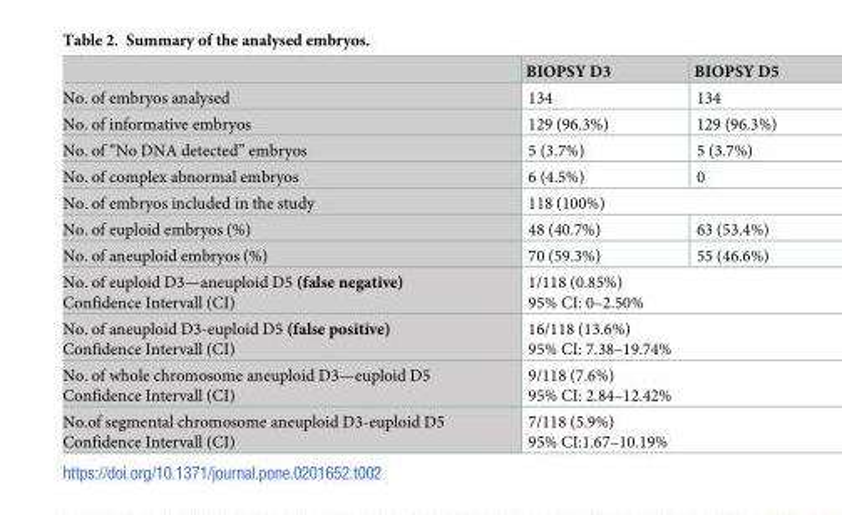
<table><thead><tr><td></td><td>BIOPSY D3</td><td>BIOPSY D5</td></tr></thead><tbody><tr><td>No. of embryos analysed</td><td>134</td><td>134</td></tr><tr><td>No. of informative embryos</td><td>129 (96.3%)</td><td>129 (96.3%)</td></tr><tr><td>No. of “No DNA detected” embryos</td><td>5 (3.7%)</td><td>5 (3.7%)</td></tr><tr><td>No. of complex abnormal embryos</td><td>6 (4.5%)</td><td>0</td></tr><tr><td>No. of embryos included in the study</td><td colspan="2">118 (100%)</td></tr><tr><td>No. of euploid embryos (%)</td><td>48 (40.7%)</td><td>63 (53.4%)</td></tr><tr><td>No. of aneuploid embryos (%)</td><td>70 (59.3%)</td><td>55 (46.6%)</td></tr><tr><td>No. of euploid D3—aneuploid D5 (false negative) Confidence Intervall (CI)</td><td colspan="2">1/118 (0.85%) 95% CI: 0–2.50%</td></tr><tr><td>No. of aneuploid D3-euploid D5 (false positive) Confidence Intervall (CI)</td><td colspan="2">16/118 (13.6%) 95% CI: 7.38–19.74%</td></tr><tr><td>No. of whole chromosome aneuploid D3—euploid D5 Confidence Intervall (CI)</td><td colspan="2">9/118 (7.6%) 95% CI: 2.84–12.42%</td></tr><tr><td>No.of segmental chromosome aneuploid D3-euploid D5 Confidence Intervall (CI)</td><td colspan="2">7/118 (5.9%) 95% CI:1.67–10.19%</td></tr></tbody></table>